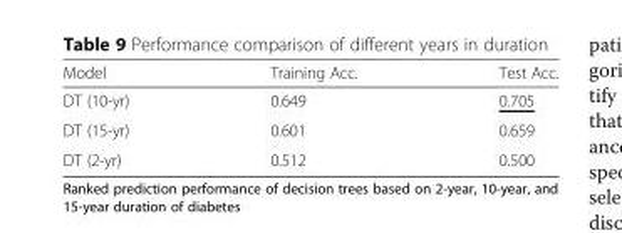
<table><thead><tr><td>Model</td><td>Training Acc.</td><td>Test Acc.</td></tr></thead><tbody><tr><td>DT (10-yr)</td><td>0.649</td><td>0.705</td></tr><tr><td>DT (15-yr)</td><td>0.601</td><td>0.659</td></tr><tr><td>DT (2-yr)</td><td>0.512</td><td>0.500</td></tr></tbody></table>